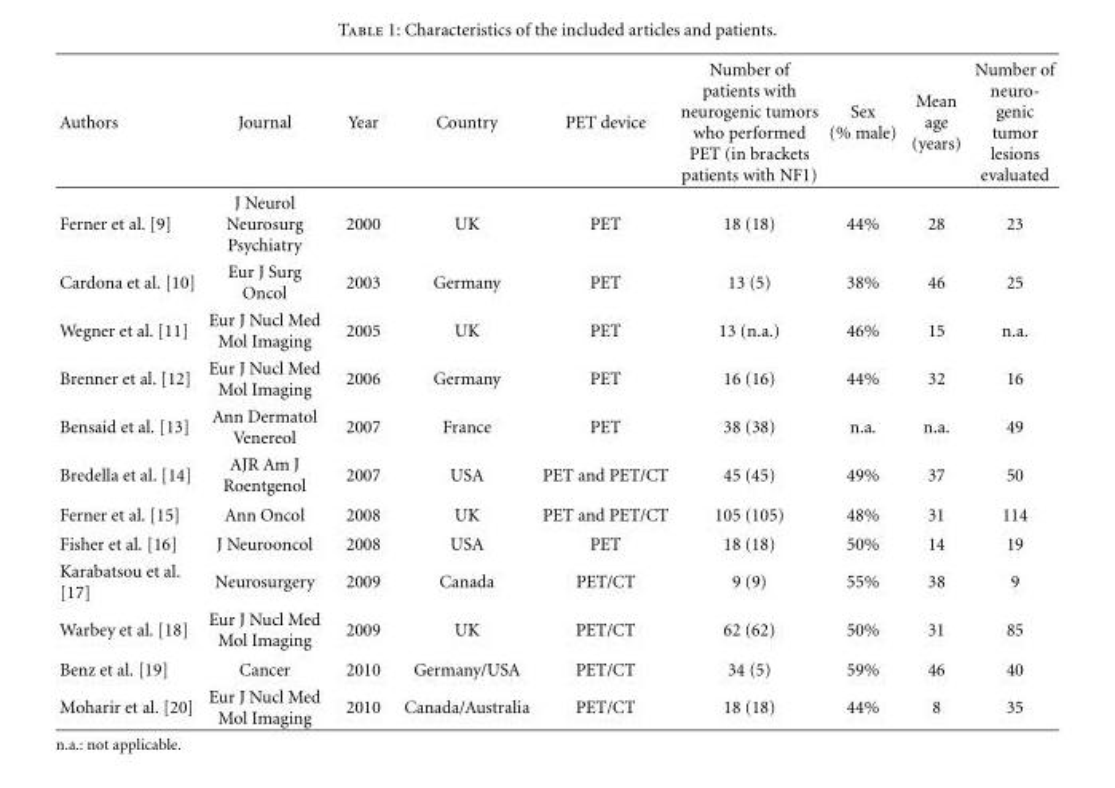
<table><thead><tr><td>Authors</td><td>Journal</td><td>Year</td><td>Country</td><td>PET device</td><td>Number of patients with neurogenic tumors who performed PET (in brackets patients with NF1)</td><td>Sex (% male)</td><td>Mean age (years)</td><td>Number of neuro- genic tumor lesions evaluated</td></tr></thead><tbody><tr><td>Ferner et al. [9]</td><td>J Neurol Neurosurg Psychiatry</td><td>2000</td><td>UK</td><td>PET</td><td>18 (18)</td><td>44%</td><td>28</td><td>23</td></tr><tr><td>Cardona et al. [10]</td><td>Eur J Surg Oncol</td><td>2003</td><td>Germany</td><td>PET</td><td>13 (5)</td><td>38%</td><td>46</td><td>25</td></tr><tr><td>Wegner et al. [11]</td><td>Eur J Nucl Med Mol Imaging</td><td>2005</td><td>UK</td><td>PET</td><td>13 (n.a.)</td><td>46%</td><td>15</td><td>n.a.</td></tr><tr><td>Brenner et al. [12]</td><td>Eur J Nucl Med Mol Imaging</td><td>2006</td><td>Germany</td><td>PET</td><td>16 (16)</td><td>44%</td><td>32</td><td>16</td></tr><tr><td>Bensaid et al. [13]</td><td>Ann Dermatol Venereol</td><td>2007</td><td>France</td><td>PET</td><td>38 (38)</td><td>n.a.</td><td>n.a.</td><td>49</td></tr><tr><td>Bredella et al. [14]</td><td>AJR Am J Roentgenol</td><td>2007</td><td>USA</td><td>PET and PET/CT</td><td>45 (45)</td><td>49%</td><td>37</td><td>50</td></tr><tr><td>Ferner et al. [15]</td><td>Ann Oncol</td><td>2008</td><td>UK</td><td>PET and PET/CT</td><td>105 (105)</td><td>48%</td><td>31</td><td>114</td></tr><tr><td>Fisher et al. [16]</td><td>J Neurooncol</td><td>2008</td><td>USA</td><td>PET</td><td>18 (18)</td><td>50%</td><td>14</td><td>19</td></tr><tr><td>Karabatsou et al. [17]</td><td>Neurosurgery</td><td>2009</td><td>Canada</td><td>PET/CT</td><td>9 (9)</td><td>55%</td><td>38</td><td>9</td></tr><tr><td>Warbey et al. [18]</td><td>Eur J Nucl Med Mol Imaging</td><td>2009</td><td>UK</td><td>PET/CT</td><td>62 (62)</td><td>50%</td><td>31</td><td>85</td></tr><tr><td>Benz et al. [19]</td><td>Cancer</td><td>2010</td><td>Germany/USA</td><td>PET/CT</td><td>34 (5)</td><td>59%</td><td>46</td><td>40</td></tr><tr><td>Moharir et al. [20]</td><td>Eur J Nucl Med Mol Imaging</td><td>2010</td><td>Canada/Australia</td><td>PET/CT</td><td>18 (18)</td><td>44%</td><td>8</td><td>35</td></tr></tbody></table>